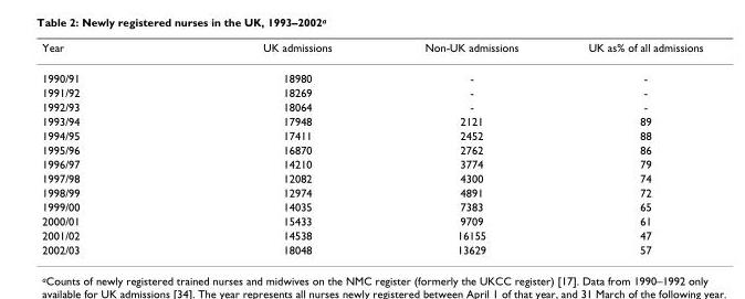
<table><thead><tr><td>Year</td><td>UK admissions</td><td>Non-UK admissions</td><td>UK as% of all admissions</td></tr></thead><tbody><tr><td>1990/91</td><td>18980</td><td>-</td><td>-</td></tr><tr><td>1991/92</td><td>18269</td><td>-</td><td>-</td></tr><tr><td>1992/93</td><td>18064</td><td>-</td><td>-</td></tr><tr><td>1993/94</td><td>17948</td><td>2121</td><td>89</td></tr><tr><td>1994/95</td><td>17411</td><td>2452</td><td>88</td></tr><tr><td>1995/96</td><td>16870</td><td>2762</td><td>86</td></tr><tr><td>1996/97</td><td>14210</td><td>3774</td><td>79</td></tr><tr><td>1997/98</td><td>12082</td><td>4300</td><td>74</td></tr><tr><td>1998/99</td><td>12974</td><td>4891</td><td>72</td></tr><tr><td>1999/00</td><td>14035</td><td>7383</td><td>65</td></tr><tr><td>2000/01</td><td>15433</td><td>9709</td><td>61</td></tr><tr><td>2001/02</td><td>14538</td><td>16155</td><td>47</td></tr><tr><td>2002/03</td><td>18048</td><td>13629</td><td>57</td></tr></tbody></table>